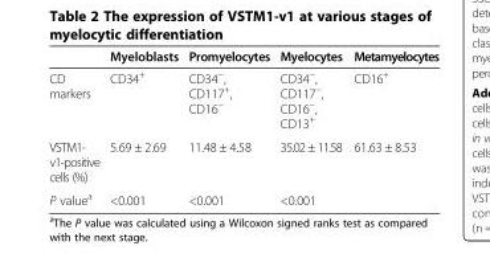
<table><thead><tr><td></td><td>Myeloblasts</td><td>Promyelocytes</td><td>Myelocytes</td><td>Metamyelocytes</td></tr></thead><tbody><tr><td>CD markers</td><td>CD34<sup>+</sup></td><td>CD34<sup>−</sup>, CD117<sup>+</sup>, CD16<sup>−</sup></td><td>CD34<sup>−</sup>, CD117<sup>−</sup>, CD16<sup>−</sup>, CD13<sup>+</sup></td><td>CD16<sup>+</sup></td></tr><tr><td>VSTM1- v1-positive cells (%)</td><td>5.69 ± 2.69</td><td>11.48 ± 4.58</td><td>35.02 ±11.58</td><td>61.63 ± 8.53</td></tr><tr><td>P value<sup>a</sup></td><td>&lt;0.001</td><td>&lt;0.001</td><td>&lt;0.001</td><td></td></tr></tbody></table>